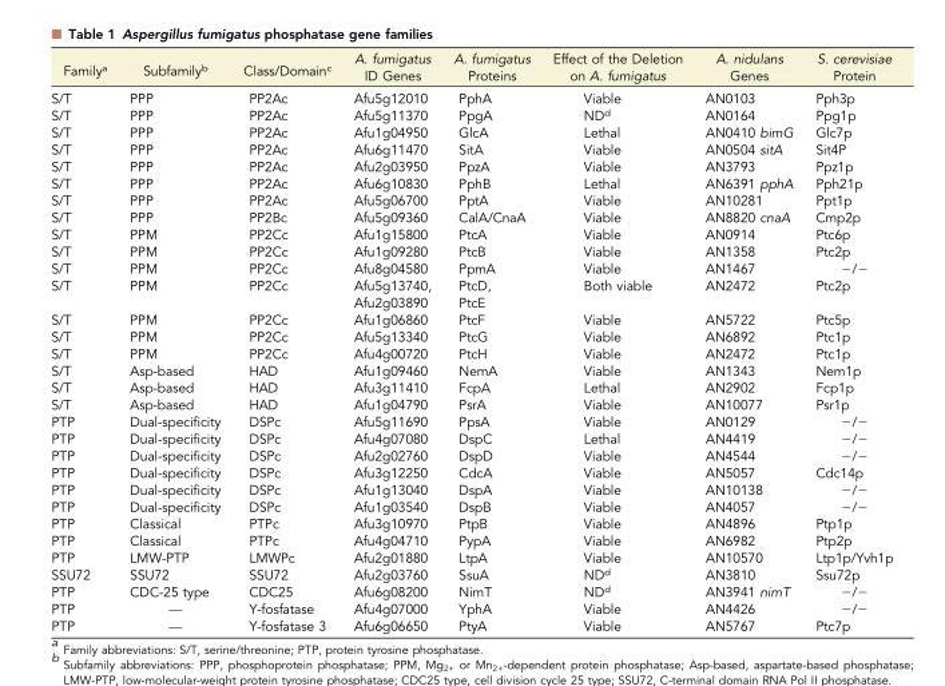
<table><thead><tr><td>Family<sup>a</sup></td><td>Subfamily<sup>b</sup></td><td>Class/Domain<sup>c</sup></td><td>A. fumigatus ID Genes</td><td>A. fumigatus Proteins</td><td>Effect of the Deletion on A. fumigatus</td><td>A. nidulans Genes</td><td>S. cerevisiae Protein</td></tr></thead><tbody><tr><td>S/T</td><td>PPP</td><td>PP2Ac</td><td>Afu5g12010</td><td>PphA</td><td>Viable</td><td>AN0103</td><td>Pph3p</td></tr><tr><td>S/T</td><td>PPP</td><td>PP2Ac</td><td>Afu5g11370</td><td>PpgA</td><td>ND<sup>d</sup></td><td>AN0164</td><td>Ppg1p</td></tr><tr><td>S/T</td><td>PPP</td><td>PP2Ac</td><td>Afu1g04950</td><td>GlcA</td><td>Lethal</td><td>AN0410 bimG</td><td>Glc7p</td></tr><tr><td>S/T</td><td>PPP</td><td>PP2Ac</td><td>Afu6g11470</td><td>SitA</td><td>Viable</td><td>AN0504 sitA</td><td>Sit4P</td></tr><tr><td>S/T</td><td>PPP</td><td>PP2Ac</td><td>Afu2g03950</td><td>PpzA</td><td>Viable</td><td>AN3793</td><td>Ppz1p</td></tr><tr><td>S/T</td><td>PPP</td><td>PP2Ac</td><td>Afu6g10830</td><td>PphB</td><td>Lethal</td><td>AN6391 pphA</td><td>Pph21p</td></tr><tr><td>S/T</td><td>PPP</td><td>PP2Ac</td><td>Afu5g06700</td><td>PptA</td><td>Viable</td><td>AN10281</td><td>Ppt1p</td></tr><tr><td>S/T</td><td>PPP</td><td>PP2Bc</td><td>Afu5g09360</td><td>CalA/CnaA</td><td>Viable</td><td>AN8820 cnaA</td><td>Cmp2p</td></tr><tr><td>S/T</td><td>PPM</td><td>PP2Cc</td><td>Afu1g15800</td><td>PtcA</td><td>Viable</td><td>AN0914</td><td>Ptc6p</td></tr><tr><td>S/T</td><td>PPM</td><td>PP2Cc</td><td>Afu1g09280</td><td>PtcB</td><td>Viable</td><td>AN1358</td><td>Ptc2p</td></tr><tr><td>S/T</td><td>PPM</td><td>PP2Cc</td><td>Afu8g04580</td><td>PpmA</td><td>Viable</td><td>AN1467</td><td>−/−</td></tr><tr><td rowspan="2">S/T</td><td rowspan="2">PPM</td><td rowspan="2">PP2Cc</td><td>Afu5g13740,</td><td>PtcD,</td><td rowspan="2">Both viable</td><td rowspan="2">AN2472</td><td rowspan="2">Ptc2p</td></tr><tr><td>Afu2g03890</td><td>PtcE</td></tr><tr><td>S/T</td><td>PPM</td><td>PP2Cc</td><td>Afu1g06860</td><td>PtcF</td><td>Viable</td><td>AN5722</td><td>Ptc5p</td></tr><tr><td>S/T</td><td>PPM</td><td>PP2Cc</td><td>Afu5g13340</td><td>PtcG</td><td>Viable</td><td>AN6892</td><td>Ptc1p</td></tr><tr><td>S/T</td><td>PPM</td><td>PP2Cc</td><td>Afu4g00720</td><td>PtcH</td><td>Viable</td><td>AN2472</td><td>Ptc1p</td></tr><tr><td>S/T</td><td>Asp-based</td><td>HAD</td><td>Afu1g09460</td><td>NemA</td><td>Viable</td><td>AN1343</td><td>Nem1p</td></tr><tr><td>S/T</td><td>Asp-based</td><td>HAD</td><td>Afu3g11410</td><td>FcpA</td><td>Lethal</td><td>AN2902</td><td>Fcp1p</td></tr><tr><td>S/T</td><td>Asp-based</td><td>HAD</td><td>Afu1g04790</td><td>PsrA</td><td>Viable</td><td>AN10077</td><td>Psr1p</td></tr><tr><td>PTP</td><td>Dual-specificity</td><td>DSPc</td><td>Afu5g11690</td><td>PpsA</td><td>Viable</td><td>AN0129</td><td>−/−</td></tr><tr><td>PTP</td><td>Dual-specificity</td><td>DSPc</td><td>Afu4g07080</td><td>DspC</td><td>Lethal</td><td>AN4419</td><td>−/−</td></tr><tr><td>PTP</td><td>Dual-specificity</td><td>DSPc</td><td>Afu2g02760</td><td>DspD</td><td>Viable</td><td>AN4544</td><td>−/−</td></tr><tr><td>PTP</td><td>Dual-specificity</td><td>DSPc</td><td>Afu3g12250</td><td>CdcA</td><td>Viable</td><td>AN5057</td><td>Cdc14p</td></tr><tr><td>PTP</td><td>Dual-specificity</td><td>DSPc</td><td>Afu1g13040</td><td>DspA</td><td>Viable</td><td>AN10138</td><td>−/−</td></tr><tr><td>PTP</td><td>Dual-specificity</td><td>DSPc</td><td>Afu1g03540</td><td>DspB</td><td>Viable</td><td>AN4057</td><td>−/−</td></tr><tr><td>PTP</td><td>Classical</td><td>PTPc</td><td>Afu3g10970</td><td>PtpB</td><td>Viable</td><td>AN4896</td><td>Ptp1p</td></tr><tr><td>PTP</td><td>Classical</td><td>PTPc</td><td>Afu4g04710</td><td>PypA</td><td>Viable</td><td>AN6982</td><td>Ptp2p</td></tr><tr><td>PTP</td><td>LMW-PTP</td><td>LMWPc</td><td>Afu2g01880</td><td>LtpA</td><td>Viable</td><td>AN10570</td><td>Ltp1p/Yvh1p</td></tr><tr><td>SSU72</td><td>SSU72</td><td>SSU72</td><td>Afu2g03760</td><td>SsuA</td><td>ND<sup>d</sup></td><td>AN3810</td><td>Ssu72p</td></tr><tr><td>PTP</td><td>CDC-25 type</td><td>CDC25</td><td>Afu6g08200</td><td>NimT</td><td>ND<sup>d</sup></td><td>AN3941 nimT</td><td>−/−</td></tr><tr><td>PTP</td><td>—</td><td>Y-fosfatase</td><td>Afu4g07000</td><td>YphA</td><td>Viable</td><td>AN4426</td><td>−/−</td></tr><tr><td>PTP</td><td>—</td><td>Y-fosfatase 3</td><td>Afu6g06650</td><td>PtyA</td><td>Viable</td><td>AN5767</td><td>Ptc7p</td></tr></tbody></table>